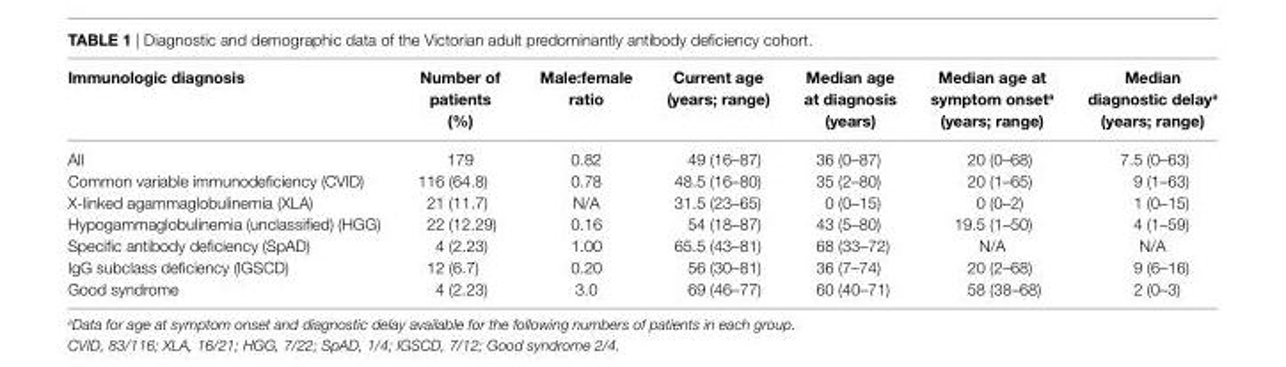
<table><thead><tr><td>immunologic diagnosis</td><td>number of patients (%)</td><td>Male:female ratio</td><td>current age (years; range)</td><td>Median age at diagnosis (years)</td><td>Median age at symptom onset<sup>a</sup> (years; range)</td><td>Median diagnostic delay<sup>a</sup> (years; range)</td></tr></thead><tbody><tr><td>All</td><td>179</td><td>0.82</td><td>49 (16–87)</td><td>36 (0–87)</td><td>20 (0–68)</td><td>7.5 (0–63)</td></tr><tr><td>Common variable immunodeficiency (CVID)</td><td>116 (64.8)</td><td>0.78</td><td>48.5 (16–80)</td><td>35 (2–80)</td><td>20 (1–65)</td><td>9 (1–63)</td></tr><tr><td>X-linked agammaglobulinemia (XLA)</td><td>21 (11.7)</td><td>N/A</td><td>31.5 (23–65)</td><td>0 (0–15)</td><td>0 (0–2)</td><td>1 (0–15)</td></tr><tr><td>Hypogammaglobulinemia (unclassified) (HGG)</td><td>22 (12.29)</td><td>0.16</td><td>54 (18–87)</td><td>43 (5–80)</td><td>19.5 (1–50)</td><td>4 (1–59)</td></tr><tr><td>Specific antibody deficiency (SpAD)</td><td>4 (2.23)</td><td>1.00</td><td>65.5 (43–81)</td><td>68 (33–72)</td><td>N/A</td><td>N/A</td></tr><tr><td>IgG subclass deficiency (IGSCD)</td><td>12 (6.7)</td><td>0.20</td><td>56 (30–81)</td><td>36 (7–74)</td><td>20 (2–68)</td><td>9 (6–16)</td></tr><tr><td>Good syndrome</td><td>4 (2.23)</td><td>3.0</td><td>69 (46–77)</td><td>60 (40–71)</td><td>58 (38–68)</td><td>2 (0–3)</td></tr></tbody></table>